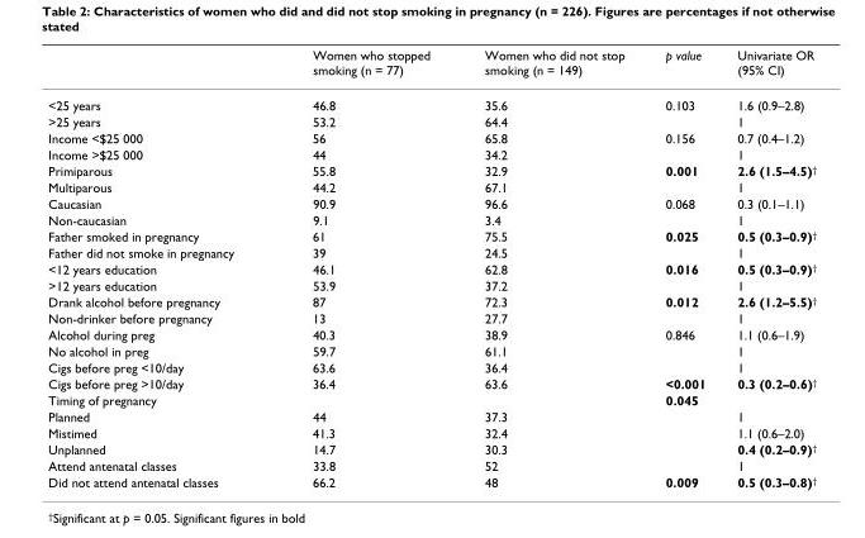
<table><thead><tr><td></td><td>Women who stopped smoking (n = 77)</td><td>Women who did not stop smoking (n = 149)</td><td>p value</td><td>Univariate OR (95% CI)</td></tr></thead><tbody><tr><td>&lt;25 years</td><td>46.8</td><td>35.6</td><td>0.103</td><td>1.6 (0.9–2.8)</td></tr><tr><td>&gt;25 years</td><td>53.2</td><td>64.4</td><td></td><td>1</td></tr><tr><td>Income &lt;$25 000</td><td>56</td><td>65.8</td><td>0.156</td><td>0.7 (0.4–1.2)</td></tr><tr><td>Income &gt;$25 000</td><td>44</td><td>34.2</td><td></td><td>1</td></tr><tr><td>Primiparous</td><td>55.8</td><td>32.9</td><td>0.001</td><td>2.6 (1.5–4.5)†</td></tr><tr><td>Multiparous</td><td>44.2</td><td>67.1</td><td></td><td>1</td></tr><tr><td>Caucasian</td><td>90.9</td><td>96.6</td><td>0.068</td><td>0.3 (0.1–1.1)</td></tr><tr><td>Non-caucasian</td><td>9.1</td><td>3.4</td><td></td><td>1</td></tr><tr><td>Father smoked in pregnancy</td><td>61</td><td>75.5</td><td>0.025</td><td>0.5 (0.3–0.9)†</td></tr><tr><td>Father did not smoke in pregnancy</td><td>39</td><td>24.5</td><td></td><td>1</td></tr><tr><td>&lt;12 years education</td><td>46.1</td><td>62.8</td><td>0.016</td><td>0.5 (0.3–0.9)†</td></tr><tr><td>&gt;12 years education</td><td>53.9</td><td>37.2</td><td></td><td>1</td></tr><tr><td>Drank alcohol before pregnancy</td><td>87</td><td>72.3</td><td>0.012</td><td>2.6 (1.2–5.5)†</td></tr><tr><td>Non-drinker before pregnancy</td><td>13</td><td>27.7</td><td></td><td>1</td></tr><tr><td>Alcohol during preg</td><td>40.3</td><td>38.9</td><td>0.846</td><td>1.1 (0.6–1.9)</td></tr><tr><td>No alcohol in preg</td><td>59.7</td><td>61.1</td><td></td><td>1</td></tr><tr><td>Cigs before preg &lt;10/day</td><td>63.6</td><td>36.4</td><td></td><td>1</td></tr><tr><td>Cigs before preg &gt;10/day</td><td>36.4</td><td>63.6</td><td>&lt;0.001</td><td>0.3 (0.2–0.6)†</td></tr><tr><td>Timing of pregnancy</td><td></td><td></td><td>0.045</td><td></td></tr><tr><td>Planned</td><td>44</td><td>37.3</td><td></td><td>1</td></tr><tr><td>Mistimed</td><td>41.3</td><td>32.4</td><td></td><td>1.1 (0.6–2.0)</td></tr><tr><td>Unplanned</td><td>14.7</td><td>30.3</td><td></td><td>0.4 (0.2–0.9)†</td></tr><tr><td>Attend antenatal classes</td><td>33.8</td><td>52</td><td></td><td>1</td></tr><tr><td>Did not attend antenatal classes</td><td>66.2</td><td>48</td><td>0.009</td><td>0.5 (0.3–0.8)†</td></tr></tbody></table>